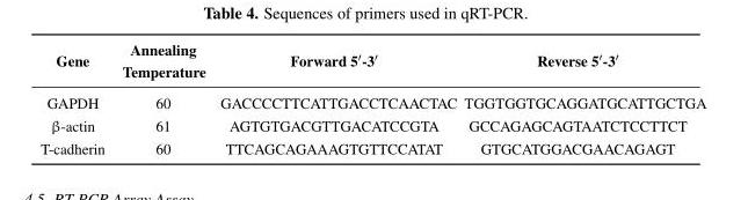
<table><thead><tr><td>Gene</td><td>Annealing Temperature</td><td>Forward 5′-3′</td><td>Reverse 5′-3′</td></tr></thead><tbody><tr><td>GAPDH</td><td>60</td><td>GACCCCTTCATTGACCTCAACTAC</td><td>TGGTGGTGCAGGATGCATTGCTGA</td></tr><tr><td>β-actin</td><td>61</td><td>AGTGTGACGTTGACATCCGTA</td><td>GCCAGAGCAGTAATCTCCTTCT</td></tr><tr><td>T-cadherin</td><td>60</td><td>TTCAGCAGAAAGTGTTCCATAT</td><td>GTGCATGGACGAACAGAGT</td></tr></tbody></table>